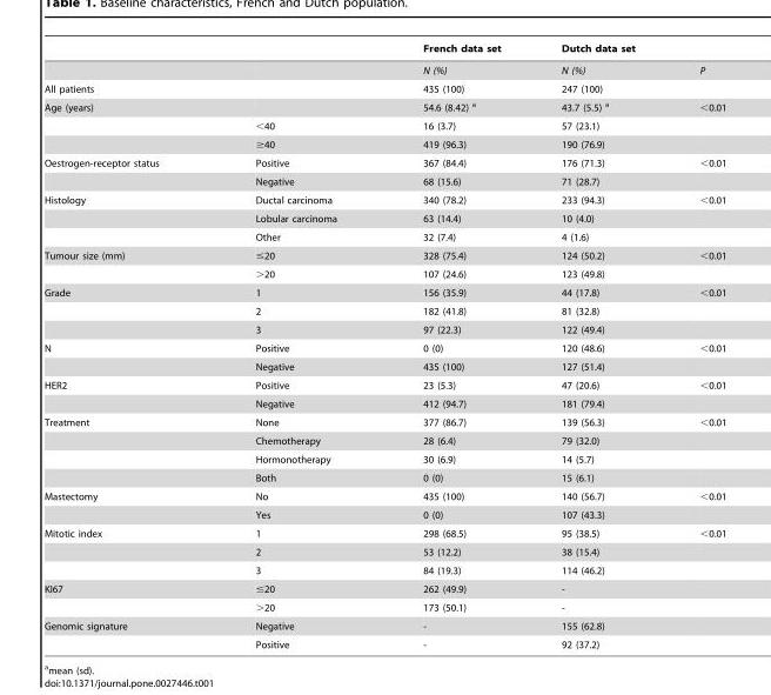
<table><thead><tr><td></td><td></td><td>French data set</td><td>Dutch data set</td><td></td></tr></thead><tbody><tr><td></td><td></td><td>N (%)</td><td>N (%)</td><td>P</td></tr><tr><td>All patients</td><td></td><td>435 (100)</td><td>247 (100)</td><td></td></tr><tr><td rowspan="3">Age (years)</td><td></td><td>54.6 (8.42) a</td><td>43.7 (5.5) a</td><td>&lt;0.01</td></tr><tr><td>&lt;40</td><td>16 (3.7)</td><td>57 (23.1)</td><td></td></tr><tr><td>≥40</td><td>419 (96.3)</td><td>190 (76.9)</td><td></td></tr><tr><td rowspan="2">Oestrogen-receptor status</td><td>Positive</td><td>367 (84.4)</td><td>176 (71.3)</td><td>&lt;0.01</td></tr><tr><td>Negative</td><td>68 (15.6)</td><td>71 (28.7)</td><td></td></tr><tr><td rowspan="3">Histology</td><td>Ductal carcinoma</td><td>340 (78.2)</td><td>233 (94.3)</td><td>&lt;0.01</td></tr><tr><td>Lobular carcinoma</td><td>63 (14.4)</td><td>10 (4.0)</td><td></td></tr><tr><td>Other</td><td>32 (7.4)</td><td>4 (1.6)</td><td></td></tr><tr><td rowspan="2">Tumour size (mm)</td><td>≤20</td><td>328 (75.4)</td><td>124 (50.2)</td><td>&lt;0.01</td></tr><tr><td>&gt;20</td><td>107 (24.6)</td><td>123 (49.8)</td><td></td></tr><tr><td rowspan="3">Grade</td><td>1</td><td>156 (35.9)</td><td>44 (17.8)</td><td>&lt;0.01</td></tr><tr><td>2</td><td>182 (41.8)</td><td>81 (32.8)</td><td></td></tr><tr><td>3</td><td>97 (22.3)</td><td>122 (49.4)</td><td></td></tr><tr><td rowspan="2">N</td><td>Positive</td><td>0 (0)</td><td>120 (48.6)</td><td>&lt;0.01</td></tr><tr><td>Negative</td><td>435 (100)</td><td>127 (51.4)</td><td></td></tr><tr><td rowspan="2">HER2</td><td>Positive</td><td>23 (5.3)</td><td>47 (20.6)</td><td>&lt;0.01</td></tr><tr><td>Negative</td><td>412 (94.7)</td><td>181 (79.4)</td><td></td></tr><tr><td rowspan="4">Treatment</td><td>None</td><td>377 (86.7)</td><td>139 (56.3)</td><td>&lt;0.01</td></tr><tr><td>Chemotherapy</td><td>28 (6.4)</td><td>79 (32.0)</td><td></td></tr><tr><td>Hormonotherapy</td><td>30 (6.9)</td><td>14 (5.7)</td><td></td></tr><tr><td>Both</td><td>0 (0)</td><td>15 (6.1)</td><td></td></tr><tr><td rowspan="2">Mastectomy</td><td>No</td><td>435 (100)</td><td>140 (56.7)</td><td>&lt;0.01</td></tr><tr><td>Yes</td><td>0 (0)</td><td>107 (43.3)</td><td></td></tr><tr><td rowspan="3">Mitotic index</td><td>1</td><td>298 (68.5)</td><td>95 (38.5)</td><td>&lt;0.01</td></tr><tr><td>2</td><td>53 (12.2)</td><td>38 (15.4)</td><td></td></tr><tr><td>3</td><td>84 (19.3)</td><td>114 (46.2)</td><td></td></tr><tr><td rowspan="2">KI67</td><td>≤20</td><td>262 (49.9)</td><td>-</td><td></td></tr><tr><td>&gt;20</td><td>173 (50.1)</td><td>-</td><td></td></tr><tr><td rowspan="2">Genomic signature</td><td>Negative</td><td>-</td><td>155 (62.8)</td><td></td></tr><tr><td>Positive</td><td>-</td><td>92 (37.2)</td><td></td></tr></tbody></table>